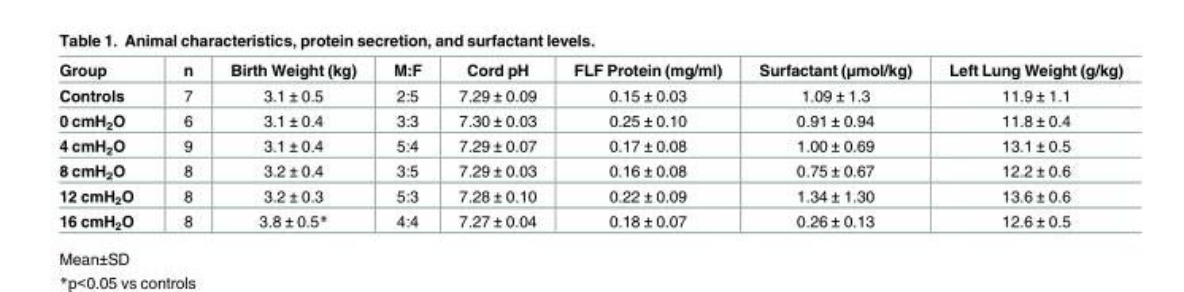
<table><thead><tr><td>Group</td><td>n</td><td>Birth Weight (kg)</td><td>M:F</td><td>Cord pH</td><td>FLF Protein (mg/ml)</td><td>Surfactant (μmol/kg)</td><td>Left Lung Weight (g/kg)</td></tr></thead><tbody><tr><td>Controls</td><td>7</td><td>3.1 ± 0.5</td><td>2:5</td><td>7.29 ± 0.09</td><td>0.15 ± 0.03</td><td>1.09 ± 1.3</td><td>11.9 ± 1.1</td></tr><tr><td>0 cmH<sub>2</sub>O</td><td>6</td><td>3.1 ± 0.4</td><td>3:3</td><td>7.30 ± 0.03</td><td>0.25 ± 0.10</td><td>0.91 ± 0.94</td><td>11.8 ± 0.4</td></tr><tr><td>4 cmH<sub>2</sub>O</td><td>9</td><td>3.1 ± 0.4</td><td>5:4</td><td>7.29 ± 0.07</td><td>0.17 ± 0.08</td><td>1.00 ± 0.69</td><td>13.1 ± 0.5</td></tr><tr><td>8 cmH<sub>2</sub>O</td><td>8</td><td>3.2 ± 0.4</td><td>3:5</td><td>7.29 ± 0.03</td><td>0.16 ± 0.08</td><td>0.75 ± 0.67</td><td>12.2 ± 0.6</td></tr><tr><td>12 cmH<sub>2</sub>O</td><td>8</td><td>3.2 ± 0.3</td><td>5:3</td><td>7.28 ± 0.10</td><td>0.22 ± 0.09</td><td>1.34 ± 1.30</td><td>13.6 ± 0.6</td></tr><tr><td>16 cmH<sub>2</sub>O</td><td>8</td><td>3.8 ± 0.5*</td><td>4:4</td><td>7.27 ± 0.04</td><td>0.18 ± 0.07</td><td>0.26 ± 0.13</td><td>12.6 ± 0.5</td></tr></tbody></table>